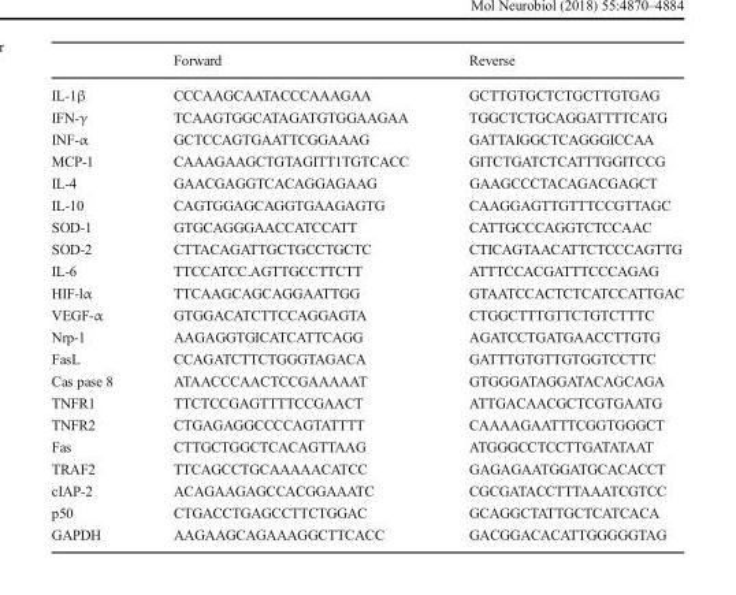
<table><thead><tr><td></td><td>Forward</td><td>Reverse</td></tr></thead><tbody><tr><td>IL-1β</td><td>CCCAAGCAATACCCAAAGAA</td><td>GCTTGTGCTCTGCTTGTGAG</td></tr><tr><td>IFN-γ</td><td>TCAAGTGGCATAGATGTGGAAGAA</td><td>TGGCTCTGCAGGATTTTCATG</td></tr><tr><td>INF-α</td><td>GCTCCAGTGAATTCGGAAAG</td><td>GATTAIGGCTCAGGGICCAA</td></tr><tr><td>MCP-1</td><td>CAAAGAAGCTGTAGITT1TGTCACC</td><td>GITCTGATCTCATTTGGITCCG</td></tr><tr><td>IL-4</td><td>GAACGAGGTCACAGGAGAAG</td><td>GAAGCCCTACAGACGAGCT</td></tr><tr><td>IL-10</td><td>CAGTGGAGCAGGTGAAGAGTG</td><td>CAAGGAGTTGTTTCCGTTAGC</td></tr><tr><td>SOD-1</td><td>GTGCAGGGAACCATCCATT</td><td>CATTGCCCAGGTCTCCAAC</td></tr><tr><td>SOD-2</td><td>CTTACAGATTGCTGCCTGCTC</td><td>CTICAGTAACATTCTCCCAGTTG</td></tr><tr><td>IL-6</td><td>TTCCATCC.AGTTGCCTTCTT</td><td>ATTTCCACGATTTCCCAGAG</td></tr><tr><td>HIF-lα</td><td>TTCAAGCAGCAGGAATTGG</td><td>GTAATCCACTCTCATCCATTGAC</td></tr><tr><td>VEGF-α</td><td>GTGGACATCTTCCAGGAGTA</td><td>CTGGCTTTGTTCTGTCTTTC</td></tr><tr><td>Nrp-1</td><td>AAGAGGTGICATCATTCAGG</td><td>AGATCCTGATGAACCTTGTG</td></tr><tr><td>FasL</td><td>CCAGATCTTCTGGGTAGACA</td><td>GATTTGTGTTGTGGTCCTTC</td></tr><tr><td>Cas pase 8</td><td>ATAACCCAACTCCGAAAAAT</td><td>GTGGGATAGGATACAGCAGA</td></tr><tr><td>TNFR1</td><td>TTCTCCGAGTTTTCCGAACT</td><td>ATTGACAACGCTCGTGAATG</td></tr><tr><td>TNFR2</td><td>CTGAGAGGCCCCAGTATTTT</td><td>CAAAAGAATTTCGGTGGGCT</td></tr><tr><td>Fas</td><td>CTTGCTGGCTCACAGTTAAG</td><td>ATGGGCCTCCTTGATATAAT</td></tr><tr><td>TRAF2</td><td>TTCAGCCTGCAAAAACATCC</td><td>GAGAGAATGGATGCACACCT</td></tr><tr><td>cIAP-2</td><td>ACAGAAGAGCCACGGAAATC</td><td>CGCGATACCTTTAAATCGTCC</td></tr><tr><td>p50</td><td>CTGACCTGAGCCTTCTGGAC</td><td>GCAGGCTATTGCTCATCACA</td></tr><tr><td>GAPDH</td><td>AAGAAGCAGAAAGGCTTCACC</td><td>GACGGACACATTGGGGGTAG</td></tr></tbody></table>